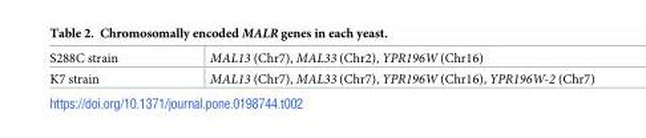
<table><tbody><tr><td>S288C strain</td><td>MAL13 (Chr7), MAL33 (Chr2), YPR196W (Chr16)</td></tr><tr><td>K7 strain</td><td>MAL13 (Chr7), MAL33 (Chr7), YPR196W (Chr16), YPR196W-2 (Chr7)</td></tr></tbody></table>